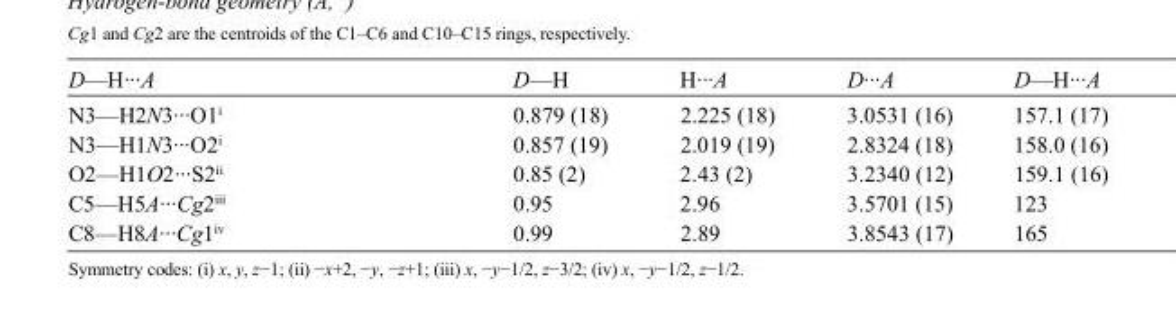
<table><tbody><tr><td>D—H···A</td><td>D—H</td><td>H···A</td><td>D···A</td><td>D—H···A</td></tr><tr><td>N3—H2N3···O1<sup>i</sup></td><td>0.879 (18)</td><td>2.225 (18)</td><td>3.0531 (16)</td><td>157.1 (17)</td></tr><tr><td>N3—H1N3···O2<sup>i</sup></td><td>0.857 (19)</td><td>2.019 (19)</td><td>2.8324 (18)</td><td>158.0 (16)</td></tr><tr><td>O2—H1O2···S2<sup>ii</sup></td><td>0.85 (2)</td><td>2.43 (2)</td><td>3.2340 (12)</td><td>159.1 (16)</td></tr><tr><td>C5—H5A···Cg2<sup>iii</sup></td><td>0.95</td><td>2.96</td><td>3.5701 (15)</td><td>123</td></tr><tr><td>C8—H8A···Cg1<sup>iv</sup></td><td>0.99</td><td>2.89</td><td>3.8543 (17)</td><td>165</td></tr></tbody></table>